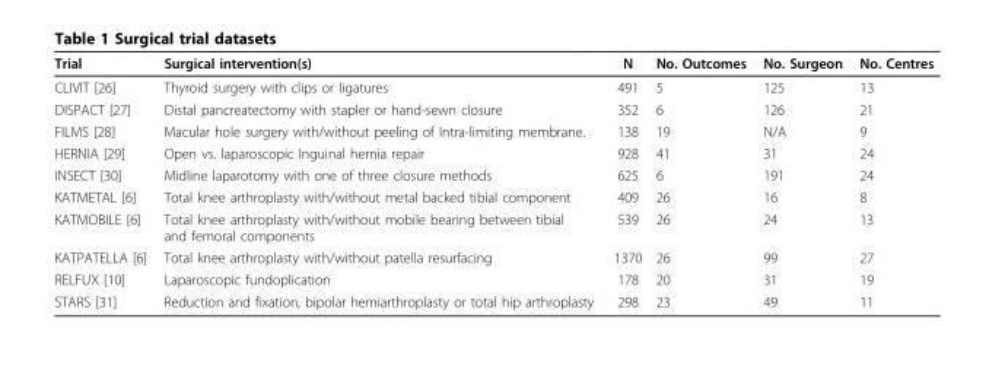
<table><thead><tr><td>Trial</td><td>Surgical intervention(s)</td><td>N</td><td>No. Outcomes</td><td>No. Surgeon</td><td>No. Centres</td></tr></thead><tbody><tr><td>CLIVIT [26]</td><td>Thyroid surgery with clips or ligatures</td><td>491</td><td>5</td><td>125</td><td>13</td></tr><tr><td>DISPACT [27]</td><td>Distal pancreatectomy with stapler or hand-sewn closure</td><td>352</td><td>6</td><td>126</td><td>21</td></tr><tr><td>FILMS [28]</td><td>Macular hole surgery with/without peeling of Intra-limiting membrane.</td><td>138</td><td>19</td><td>N/A</td><td>9</td></tr><tr><td>HERNIA [29]</td><td>Open vs. laparoscopic Inguinal hernia repair</td><td>928</td><td>41</td><td>31</td><td>24</td></tr><tr><td>INSECT [30]</td><td>Midline laparotomy with one of three closure methods</td><td>625</td><td>6</td><td>191</td><td>24</td></tr><tr><td>KATMETAL [6]</td><td>Total knee arthroplasty with/without metal backed tibial component</td><td>409</td><td>26</td><td>16</td><td>8</td></tr><tr><td>KATMOBILE [6]</td><td>Total knee arthroplasty with/without mobile bearing between tibial and femoral components</td><td>539</td><td>26</td><td>24</td><td>13</td></tr><tr><td>KATPATELLA [6]</td><td>Total knee arthroplasty with/without patella resurfacing</td><td>1370</td><td>26</td><td>99</td><td>27</td></tr><tr><td>RELFUX [10]</td><td>Laparoscopic fundoplication</td><td>178</td><td>20</td><td>31</td><td>19</td></tr><tr><td>STARS [31]</td><td>Reduction and fixation, bipolar hemiarthroplasty or total hip arthroplasty</td><td>298</td><td>23</td><td>49</td><td>11</td></tr></tbody></table>